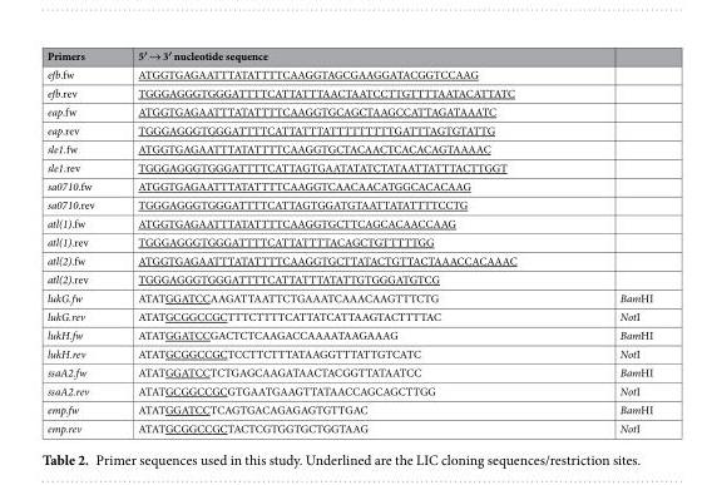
<table><thead><tr><td>Primers</td><td>5′ → 3′ nucleotide sequence</td><td></td></tr></thead><tbody><tr><td>efb.fw</td><td>ATGGTGAGAATTTATATTTTCAAGGTAGCGAAGGATACGGTCCAAG</td><td></td></tr><tr><td>efb.rev</td><td>TGGGAGGGTGGGATTTTCATTATTTAACTAATCCTTGTTTTAATACATTATC</td><td></td></tr><tr><td>eap.fw</td><td>ATGGTGAGAATTTATATTTTCAAGGTGCAGCTAAGCCATTAGATAAATC</td><td></td></tr><tr><td>eap.rev</td><td>TGGGAGGGTGGGATTTTCATTATTTATTTTTTTTTGATTTAGTGTATTG</td><td></td></tr><tr><td>sle1.fw</td><td>ATGGTGAGAATTTATATTTTCAAGGTGCTACAACTCACACAGTAAAAC</td><td></td></tr><tr><td>sle1.rev</td><td>TGGGAGGGTGGGATTTTCATTAGTGAATATATCTATAATTATTTACTTGGT</td><td></td></tr><tr><td>sa0710.fw</td><td>ATGGTGAGAATTTATATTTTCAAGGTCAACAACATGGCACACAAG</td><td></td></tr><tr><td>sa0710.rev</td><td>TGGGAGGGTGGGATTTTCATTAGTGGATGTAATTATATTTTCCTG</td><td></td></tr><tr><td>atl(1).fw</td><td>ATGGTGAGAATTTATATTTTCAAGGTGCTTCAGCACAACCAAG</td><td></td></tr><tr><td>atl(1).rev</td><td>TGGGAGGGTGGGATTTTCATTATTTTACAGCTGTTTTTGG</td><td></td></tr><tr><td>atl(2).fw</td><td>ATGGTGAGAATTTATATTTTCAAGGTGCTTATACTGTTACTAAACCACAAAC</td><td></td></tr><tr><td>atl(2).rev</td><td>TGGGAGGGTGGGATTTTCATTATTTATATTGTGGGATGTCG</td><td></td></tr><tr><td>lukG.fw</td><td>ATATGGATCCAAGATTAATTCTGAAATCAAACAAGTTTCTG</td><td>BamHI</td></tr><tr><td>lukG.rev</td><td>ATATGCGGCCGCTTTCTTTTCATTATCATTAAGTACTTTTAC</td><td>NotI</td></tr><tr><td>lukH.fw</td><td>ATATGGATCCGACTCTCAAGACCAAAATAAGAAAG</td><td>BamHI</td></tr><tr><td>lukH.rev</td><td>ATATGCGGCCGCTCCTTCTTTATAAGGTTTATTGTCATC</td><td>NotI</td></tr><tr><td>ssaA2.fw</td><td>ATATGGATCCTCTGAGCAAGATAACTACGGTTATAATCC</td><td>BamHI</td></tr><tr><td>ssaA2.rev</td><td>ATATGCGGCCGCGTGAATGAAGTTATAACCAGCAGCTTGG</td><td>NotI</td></tr><tr><td>emp.fw</td><td>ATATGGATCCTCAGTGACAGAGAGTGTTGAC</td><td>BamHI</td></tr><tr><td>emp.rev</td><td>ATATGCGGCCGCTACTCGTGGTGCTGGTAAG</td><td>NotI</td></tr></tbody></table>